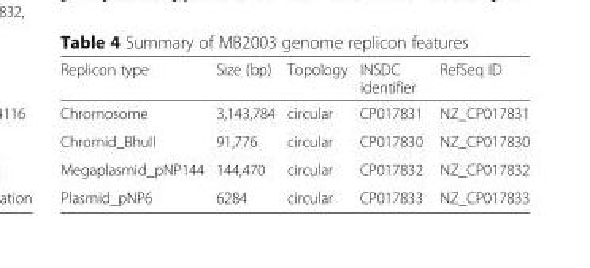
<table><thead><tr><td>Replicon type</td><td>Size (bp)</td><td>Topology</td><td>INSDC identifier</td><td>RefSeq ID</td></tr></thead><tbody><tr><td>Chromosome</td><td>3,143,784</td><td>circular</td><td>CP017831</td><td>NZ_CP017831</td></tr><tr><td>Chromid_BhuII</td><td>91,776</td><td>circular</td><td>CP017830</td><td>NZ_CP017830</td></tr><tr><td>Megaplasmid_pNP144</td><td>144,470</td><td>circular</td><td>CP017832</td><td>NZ_CP017832</td></tr><tr><td>Plasmid_pNP6</td><td>6284</td><td>circular</td><td>CP017833</td><td>NZ_CP017833</td></tr></tbody></table>